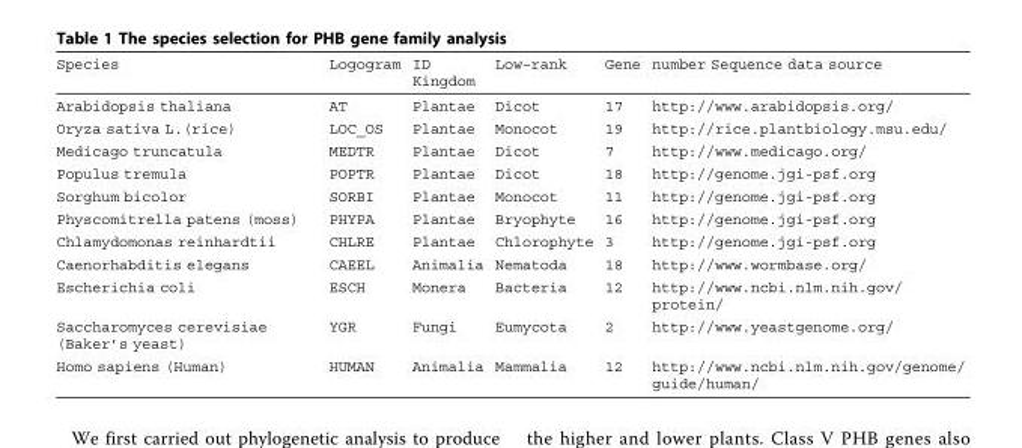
<table><thead><tr><td>Species</td><td>Logogram</td><td>ID Kingdom</td><td>Low–rank</td><td>Gene</td><td>number Sequence data source</td></tr></thead><tbody><tr><td>Arabidopsis thaliana</td><td>AT</td><td>Plantae</td><td>Dicot</td><td>17</td><td>http://www.arabidopsis.org/</td></tr><tr><td>Oryza sativa L.(rice)</td><td>LOC_OS</td><td>Plantae</td><td>Monocot</td><td>19</td><td>http://rice.plantbiology.msu.edu/</td></tr><tr><td>Medicago truncatula</td><td>MEDTR</td><td>Plantae</td><td>Dicot</td><td>7</td><td>http://www.medicago.org/</td></tr><tr><td>Populus tremula</td><td>POPTR</td><td>Plantae</td><td>Dicot</td><td>18</td><td>http://genome.jgi-psf.org</td></tr><tr><td>Sorghum bicolor</td><td>SORBI</td><td>Plantae</td><td>Monocot</td><td>11</td><td>http://genome.jgi-psf.org</td></tr><tr><td>Physcomitrella patens (moss)</td><td>PHYPA</td><td>Plantae</td><td>Bryophyte</td><td>16</td><td>http://genome.jgi-psf.org</td></tr><tr><td>Chlamydomonas reinhardtii</td><td>CHLRE</td><td>Plantae</td><td>Chlorophyte</td><td>3</td><td>http://genome.jgi-psf.org</td></tr><tr><td>Caenorhabditis elegans</td><td>CAEEL</td><td>Animalia</td><td>Nematoda</td><td>18</td><td>http://www.wormbase.org/</td></tr><tr><td>Escherichia coli</td><td>ESCH</td><td>Monera</td><td>Bacteria</td><td>12</td><td>http://www.ncbi.nlm.nih.gov/ protein/</td></tr><tr><td>Saccharomyces cerevisiae (Baker’s yeast)</td><td>YGR</td><td>Fungi</td><td>Eumycota</td><td>2</td><td>http://www.yeastgenome.org/</td></tr><tr><td>Homo sapiens (Human)</td><td>HUMAN</td><td>Animalia</td><td>Mammalia</td><td>12</td><td>http://www.ncbi.nlm.nih.gov/genome/ guide/human/</td></tr></tbody></table>